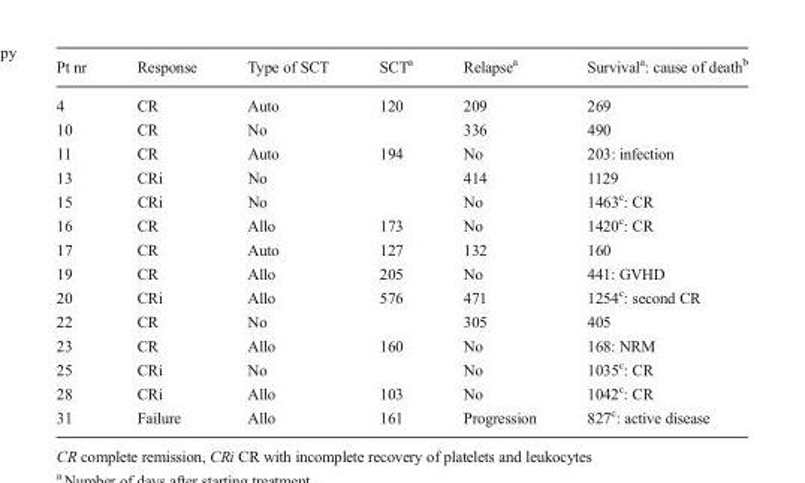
<table><thead><tr><td>Pt nr</td><td>Response</td><td>Type of SCT</td><td>SCT<sup>a</sup></td><td>Relapse<sup>a</sup></td><td>Survival<sup>a</sup>: cause of death<sup>b</sup></td></tr></thead><tbody><tr><td>4</td><td>CR</td><td>Auto</td><td>120</td><td>209</td><td>269</td></tr><tr><td>10</td><td>CR</td><td>No</td><td></td><td>336</td><td>490</td></tr><tr><td>11</td><td>CR</td><td>Auto</td><td>194</td><td>No</td><td>203: infection</td></tr><tr><td>13</td><td>CRi</td><td>No</td><td></td><td>414</td><td>1129</td></tr><tr><td>15</td><td>CRi</td><td>No</td><td></td><td>No</td><td>1463<sup>c</sup>: CR</td></tr><tr><td>16</td><td>CR</td><td>Allo</td><td>173</td><td>No</td><td>1420<sup>c</sup>: CR</td></tr><tr><td>17</td><td>CR</td><td>Auto</td><td>127</td><td>132</td><td>160</td></tr><tr><td>19</td><td>CR</td><td>Allo</td><td>205</td><td>No</td><td>441: GVHD</td></tr><tr><td>20</td><td>CRi</td><td>Allo</td><td>576</td><td>471</td><td>1254<sup>c</sup>: second CR</td></tr><tr><td>22</td><td>CR</td><td>No</td><td></td><td>305</td><td>405</td></tr><tr><td>23</td><td>CR</td><td>Allo</td><td>160</td><td>No</td><td>168: NRM</td></tr><tr><td>25</td><td>CRi</td><td>No</td><td></td><td>No</td><td>1035<sup>c</sup>: CR</td></tr><tr><td>28</td><td>CRi</td><td>Allo</td><td>103</td><td>No</td><td>1042<sup>c</sup>: CR</td></tr><tr><td>31</td><td>Failure</td><td>Allo</td><td>161</td><td>Progression</td><td>827<sup>c</sup>: active disease</td></tr></tbody></table>